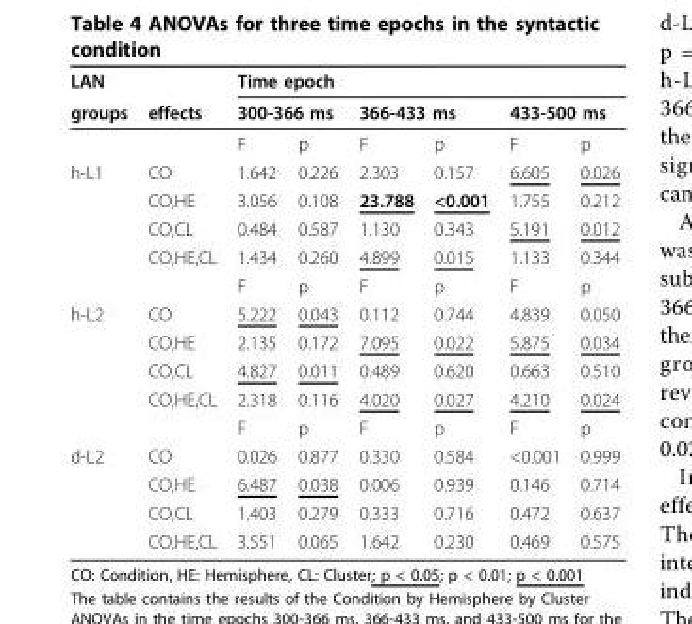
<table><thead><tr><td colspan="2">LAN</td><td colspan="6">Time epoch</td></tr><tr><td>groups</td><td>effects</td><td colspan="2">300-366 ms</td><td colspan="2">366-433 ms</td><td colspan="2">433-500 ms</td></tr><tr><td colspan="2"></td><td>F</td><td>p</td><td>F</td><td>p</td><td>F</td><td>p</td></tr></thead><tbody><tr><td rowspan="5">h-L1</td><td>CO</td><td>1.642</td><td>0.226</td><td>2.303</td><td>0.157</td><td>6.605</td><td>0.026</td></tr><tr><td>CO,HE</td><td>3.056</td><td>0.108</td><td>23.788</td><td>&lt;0.001</td><td>1.755</td><td>0.212</td></tr><tr><td>CO,CL</td><td>0.484</td><td>0.587</td><td>1.130</td><td>0.343</td><td>5.191</td><td>0.012</td></tr><tr><td>CO,HE,CL</td><td>1.434</td><td>0.260</td><td>4.899</td><td>0.015</td><td>1.133</td><td>0.344</td></tr><tr><td></td><td>F</td><td>p</td><td>F</td><td>p</td><td>F</td><td>p</td></tr><tr><td rowspan="5">h-L2</td><td>CO</td><td>5.222</td><td>0.043</td><td>0.112</td><td>0.744</td><td>4.839</td><td>0.050</td></tr><tr><td>CO,HE</td><td>2.135</td><td>0.172</td><td>7.095</td><td>0.022</td><td>5.875</td><td>0.034</td></tr><tr><td>CO,CL</td><td>4.827</td><td>0.011</td><td>0.489</td><td>0.620</td><td>0.663</td><td>0.510</td></tr><tr><td>CO,HE,CL</td><td>2.318</td><td>0.116</td><td>4.020</td><td>0.027</td><td>4.210</td><td>0.024</td></tr><tr><td></td><td>F</td><td>p</td><td>F</td><td>p</td><td>F</td><td>p</td></tr><tr><td rowspan="4">d-L2</td><td>CO</td><td>0.026</td><td>0.877</td><td>0.330</td><td>0.584</td><td>&lt;0.001</td><td>0.999</td></tr><tr><td>CO,HE</td><td>6.487</td><td>0.038</td><td>0.006</td><td>0.939</td><td>0.146</td><td>0.714</td></tr><tr><td>CO,CL</td><td>1.403</td><td>0.279</td><td>0.333</td><td>0.716</td><td>0.472</td><td>0.637</td></tr><tr><td>CO,HE,CL</td><td>3.551</td><td>0.065</td><td>1.642</td><td>0.230</td><td>0.469</td><td>0.575</td></tr></tbody></table>